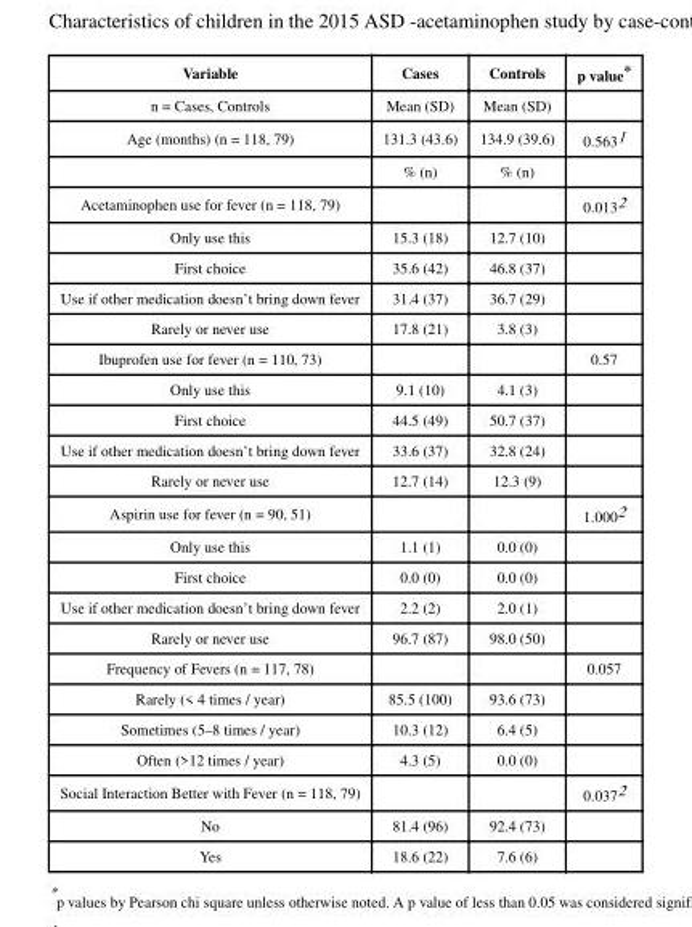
<table><thead><tr><td>Variable</td><td>Cases</td><td>Controls</td><td>p value*</td></tr></thead><tbody><tr><td>n = Cases, Controls</td><td>Mean (SD)</td><td>Mean (SD)</td><td></td></tr><tr><td rowspan="2">Age (months) (n = 118, 79)</td><td>131.3 (43.6)</td><td>134.9 (39.6)</td><td>0.563<sup>1</sup></td></tr><tr><td>% (n)</td><td>% (n)</td><td></td></tr><tr><td>Acetaminophen use for fever (n = 118, 79)</td><td></td><td></td><td>0.013<sup>2</sup></td></tr><tr><td>Only use this</td><td>15.3 (18)</td><td>12.7 (10)</td><td></td></tr><tr><td>First choice</td><td>35.6 (42)</td><td>46.8 (37)</td><td></td></tr><tr><td>Use if other medication doesn’t bring down fever</td><td>31.4 (37)</td><td>36.7 (29)</td><td></td></tr><tr><td>Rarely or never use</td><td>17.8 (21)</td><td>3.8 (3)</td><td></td></tr><tr><td>Ibuprofen use for fever (n = 110, 73)</td><td></td><td></td><td>0.57</td></tr><tr><td>Only use this</td><td>9.1 (10)</td><td>4.1 (3)</td><td></td></tr><tr><td>First choice</td><td>44.5 (49)</td><td>50.7 (37)</td><td></td></tr><tr><td>Use if other medication doesn’t bring down fever</td><td>33.6 (37)</td><td>32.8 (24)</td><td></td></tr><tr><td>Rarely or never use</td><td>12.7 (14)</td><td>12.3 (9)</td><td></td></tr><tr><td>Aspirin use for fever (n = 90, 51)</td><td></td><td></td><td>1.000<sup>2</sup></td></tr><tr><td>Only use this</td><td>1.1 (1)</td><td>0.0 (0)</td><td></td></tr><tr><td>First choice</td><td>0.0 (0)</td><td>0.0 (0)</td><td></td></tr><tr><td>Use if other medication doesn’t bring down fever</td><td>2.2 (2)</td><td>2.0 (1)</td><td></td></tr><tr><td>Rarely or never use</td><td>96.7 (87)</td><td>98.0 (50)</td><td></td></tr><tr><td>Frequency of Fevers (n = 117, 78)</td><td></td><td></td><td>0.057</td></tr><tr><td>Rarely (&lt; 4 times / year)</td><td>85.5 (100)</td><td>93.6 (73)</td><td></td></tr><tr><td>Sometimes (5–8 times / year)</td><td>10.3 (12)</td><td>6.4 (5)</td><td></td></tr><tr><td>Often (&gt;12 times / year)</td><td>4.3 (5)</td><td>0.0 (0)</td><td></td></tr><tr><td>Social Interaction Better with Fever (n = 118, 79)</td><td></td><td></td><td>0.037<sup>2</sup></td></tr><tr><td>No</td><td>81.4 (96)</td><td>92.4 (73)</td><td></td></tr><tr><td>Yes</td><td>18.6 (22)</td><td>7.6 (6)</td><td></td></tr></tbody></table>